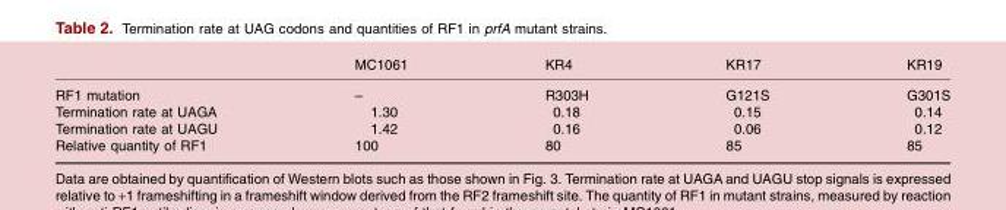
<table><thead><tr><td></td><td>MC1061</td><td>KR4</td><td>KR17</td><td>KR19</td></tr></thead><tbody><tr><td>RF1 mutation</td><td>–</td><td>R303H</td><td>G121S</td><td>G301S</td></tr><tr><td>Termination rate at UAGA</td><td>1.30</td><td>0.18</td><td>0.15</td><td>0.14</td></tr><tr><td>Termination rate at UAGU</td><td>1.42</td><td>0.16</td><td>0.06</td><td>0.12</td></tr><tr><td>Relative quantity of RF1</td><td>100</td><td>80</td><td>85</td><td>85</td></tr></tbody></table>